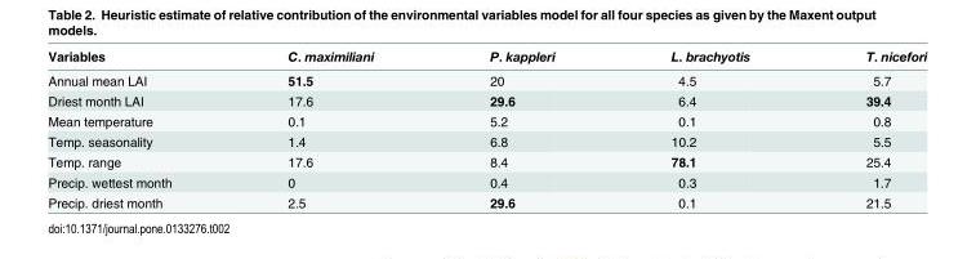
<table><thead><tr><td>Variables</td><td>C. maximiliani</td><td>P. kappleri</td><td>L. brachyotis</td><td>T. nicefori</td></tr></thead><tbody><tr><td>Annual mean LAI</td><td>51.5</td><td>20</td><td>4.5</td><td>5.7</td></tr><tr><td>Driest month LAI</td><td>17.6</td><td>29.6</td><td>6.4</td><td>39.4</td></tr><tr><td>Mean temperature</td><td>0.1</td><td>5.2</td><td>0.1</td><td>0.8</td></tr><tr><td>Temp. seasonality</td><td>1.4</td><td>6.8</td><td>10.2</td><td>5.5</td></tr><tr><td>Temp. range</td><td>17.6</td><td>8.4</td><td>78.1</td><td>25.4</td></tr><tr><td>Precip. wettest month</td><td>0</td><td>0.4</td><td>0.3</td><td>1.7</td></tr><tr><td>Precip. driest month</td><td>2.5</td><td>29.6</td><td>0.1</td><td>21.5</td></tr></tbody></table>